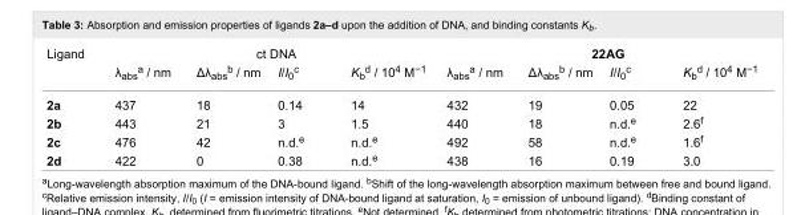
<table><tbody><tr><td rowspan="2">Ligand</td><td colspan="4">ct DNA</td><td colspan="4">22AG</td></tr><tr><td>λ<sub>abs</sub><sup>a</sup> / nm</td><td>Δλ<sub>abs</sub><sup>b</sup> / nm</td><td>I/I<sub>0</sub><sup>c</sup></td><td>K<sub>b</sub><sup>d</sup> / 10<sup>4</sup> M<sup>−1</sup></td><td>λ<sub>abs</sub><sup>a</sup> / nm</td><td>Δλ<sub>abs</sub><sup>b</sup> / nm</td><td>I/I<sub>0</sub><sup>c</sup></td><td>K<sub>b</sub><sup>d</sup> / 10<sup>4</sup> M<sup>−1</sup></td></tr><tr><td>2a</td><td>437</td><td>18</td><td>0.14</td><td>14</td><td>432</td><td>19</td><td>0.05</td><td>22</td></tr><tr><td>2b</td><td>443</td><td>21</td><td>3</td><td>1.5</td><td>440</td><td>18</td><td>n.d.<sup>e</sup></td><td>2.6<sup>f</sup></td></tr><tr><td>2c</td><td>476</td><td>42</td><td>n.d.<sup>e</sup></td><td>n.d.<sup>e</sup></td><td>492</td><td>58</td><td>n.d.<sup>e</sup></td><td>1.6<sup>f</sup></td></tr><tr><td>2d</td><td>422</td><td>0</td><td>0.38</td><td>n.d.<sup>e</sup></td><td>438</td><td>16</td><td>0.19</td><td>3.0</td></tr></tbody></table>